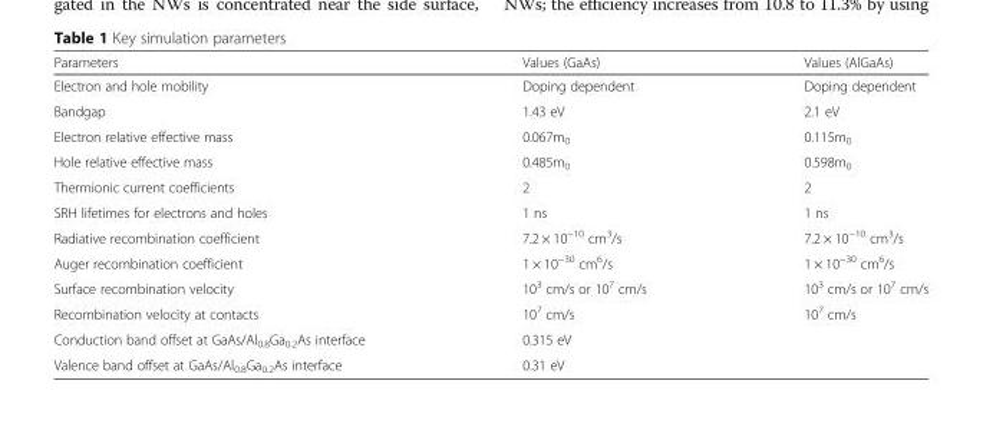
<table><thead><tr><td>Parameters</td><td>Values (GaAs)</td><td>Values (AlGaAs)</td></tr></thead><tbody><tr><td>Electron and hole mobility</td><td>Doping dependent</td><td>Doping dependent</td></tr><tr><td>Bandgap</td><td>1.43 eV</td><td>2.1 eV</td></tr><tr><td>Electron relative effective mass</td><td>0.067m<sub>0</sub></td><td>0.115m<sub>0</sub></td></tr><tr><td>Hole relative effective mass</td><td>0.485m<sub>0</sub></td><td>0.598m<sub>0</sub></td></tr><tr><td>Thermionic current coefficients</td><td>2</td><td>2</td></tr><tr><td>SRH lifetimes for electrons and holes</td><td>1 ns</td><td>1 ns</td></tr><tr><td>Radiative recombination coefficient</td><td>7.2 × 10<sup>−10</sup> cm<sup>3</sup>/s</td><td>7.2 × 10<sup>−10</sup> cm<sup>3</sup>/s</td></tr><tr><td>Auger recombination coefficient</td><td>1 × 10<sup>−30</sup> cm<sup>6</sup>/s</td><td>1 × 10<sup>−30</sup> cm<sup>6</sup>/s</td></tr><tr><td>Surface recombination velocity</td><td>10<sup>3</sup> cm/s or 10<sup>7</sup> cm/s</td><td>10<sup>3</sup> cm/s or 10<sup>7</sup> cm/s</td></tr><tr><td>Recombination velocity at contacts</td><td>10<sup>7</sup> cm/s</td><td>10<sup>7</sup> cm/s</td></tr><tr><td>Conduction band offset at GaAs/Al<sub>0.8</sub>Ga<sub>0.2</sub>As interface</td><td colspan="2">0.315 eV</td></tr><tr><td>Valence band offset at GaAs/Al<sub>0.8</sub>Ga<sub>0.2</sub>As interface</td><td colspan="2">0.31 eV</td></tr></tbody></table>